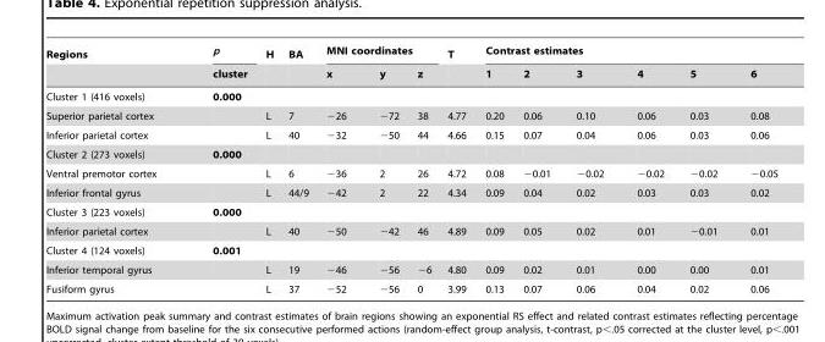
<table><thead><tr><td rowspan="2">Regions</td><td rowspan="2">p cluster</td><td rowspan="2">H</td><td rowspan="2">BA</td><td colspan="3">MNI coordinates</td><td rowspan="2">T</td><td colspan="6">Contrast estimates</td></tr><tr><td>x</td><td>y</td><td>z</td><td>1</td><td>2</td><td>3</td><td>4</td><td>5</td><td>6</td></tr></thead><tbody><tr><td>Cluster 1 (416 voxels)</td><td>0.000</td><td></td><td></td><td></td><td></td><td></td><td></td><td></td><td></td><td></td><td></td><td></td><td></td></tr><tr><td>Superior parietal cortex</td><td></td><td>L</td><td>7</td><td>−26</td><td>−72</td><td>38</td><td>4.77</td><td>0.20</td><td>0.06</td><td>0.10</td><td>0.06</td><td>0.03</td><td>0.08</td></tr><tr><td>Inferior parietal cortex</td><td></td><td>L</td><td>40</td><td>−32</td><td>−50</td><td>44</td><td>4.66</td><td>0.15</td><td>0.07</td><td>0.04</td><td>0.06</td><td>0.03</td><td>0.06</td></tr><tr><td>Cluster 2 (273 voxels)</td><td>0.000</td><td></td><td></td><td></td><td></td><td></td><td></td><td></td><td></td><td></td><td></td><td></td><td></td></tr><tr><td>Ventral premotor cortex</td><td></td><td>L</td><td>6</td><td>−36</td><td>2</td><td>26</td><td>4.72</td><td>0.08</td><td>−0.01</td><td>−0.02</td><td>−0.02</td><td>−0.02</td><td>−0.05</td></tr><tr><td>Inferior frontal gyrus</td><td></td><td>L</td><td>44/9</td><td>−42</td><td>2</td><td>22</td><td>4.34</td><td>0.09</td><td>0.04</td><td>0.02</td><td>0.03</td><td>0.03</td><td>0.02</td></tr><tr><td>Cluster 3 (223 voxels)</td><td>0.000</td><td></td><td></td><td></td><td></td><td></td><td></td><td></td><td></td><td></td><td></td><td></td><td></td></tr><tr><td>Inferior parietal cortex</td><td></td><td>L</td><td>40</td><td>−50</td><td>−42</td><td>46</td><td>4.89</td><td>0.09</td><td>0.05</td><td>0.02</td><td>0.01</td><td>−0.01</td><td>0.01</td></tr><tr><td>Cluster 4 (124 voxels)</td><td>0.001</td><td></td><td></td><td></td><td></td><td></td><td></td><td></td><td></td><td></td><td></td><td></td><td></td></tr><tr><td>Inferior temporal gyrus</td><td></td><td>L</td><td>19</td><td>−46</td><td>−56</td><td>−6</td><td>4.80</td><td>0.09</td><td>0.02</td><td>0.01</td><td>0.00</td><td>0.00</td><td>0.01</td></tr><tr><td>Fusiform gyrus</td><td></td><td>L</td><td>37</td><td>−52</td><td>−56</td><td>0</td><td>3.99</td><td>0.13</td><td>0.07</td><td>0.06</td><td>0.04</td><td>0.02</td><td>0.06</td></tr></tbody></table>